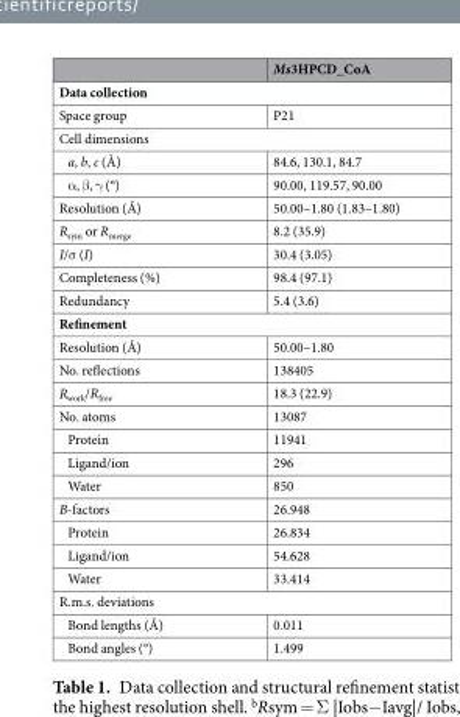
<table><thead><tr><td></td><td>Ms3HPCD_CoA</td></tr></thead><tbody><tr><td colspan="2">Data collection</td></tr><tr><td>Space group</td><td>P21</td></tr><tr><td colspan="2">Cell dimensions</td></tr><tr><td>a, b, c (Å)</td><td>84.6, 130.1, 84.7</td></tr><tr><td>α, β, γ (°)</td><td>90.00, 119.57, 90.00</td></tr><tr><td>Resolution (Å)</td><td>50.00–1.80 (1.83–1.80)</td></tr><tr><td>R<sub>sym</sub> or R<sub>merge</sub></td><td>8.2 (35.9)</td></tr><tr><td>I/σ (I)</td><td>30.4 (3.05)</td></tr><tr><td>Completeness (%)</td><td>98.4 (97.1)</td></tr><tr><td>Redundancy</td><td>5.4 (3.6)</td></tr><tr><td colspan="2">Refinement</td></tr><tr><td>Resolution (Å)</td><td>50.00–1.80</td></tr><tr><td>No. reflections</td><td>138405</td></tr><tr><td>R<sub>work</sub>/R<sub>free</sub></td><td>18.3 (22.9)</td></tr><tr><td>No. atoms</td><td>13087</td></tr><tr><td>Protein</td><td>11941</td></tr><tr><td>Ligand/ion</td><td>296</td></tr><tr><td>Water</td><td>850</td></tr><tr><td>B-factors</td><td>26.948</td></tr><tr><td>Protein</td><td>26.834</td></tr><tr><td>Ligand/ion</td><td>54.628</td></tr><tr><td>Water</td><td>33.414</td></tr><tr><td colspan="2">R.m.s. deviations</td></tr><tr><td>Bond lengths (Å)</td><td>0.011</td></tr><tr><td>Bond angles (°)</td><td>1.499</td></tr></tbody></table>